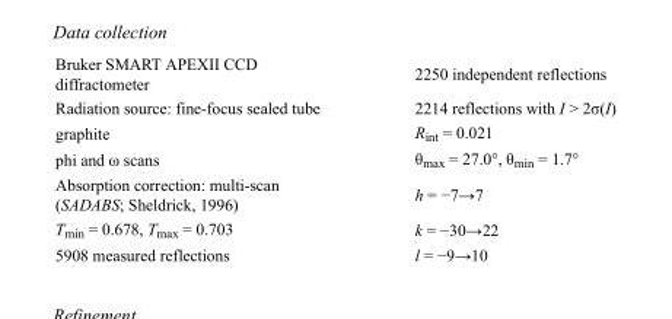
<table><tbody><tr><td>Bruker SMART APEXII CCD diffractometer</td><td>2250 independent reflections</td></tr><tr><td>Radiation source: fine-focus sealed tube</td><td>2214 reflections with I &gt; 2σ(I)</td></tr><tr><td>graphite</td><td>R<sub>int</sub> = 0.021</td></tr><tr><td>phi and ω scans</td><td>θ<sub>max</sub> = 27.0°, θ<sub>min</sub> = 1.7°</td></tr><tr><td>Absorption correction: multi-scan (SADABS; Sheldrick, 1996)</td><td>h = −7→7</td></tr><tr><td>T<sub>min</sub> = 0.678, T<sub>max</sub> = 0.703</td><td>k = −30→22</td></tr><tr><td>5908 measured reflections</td><td>l = −9→10</td></tr></tbody></table>